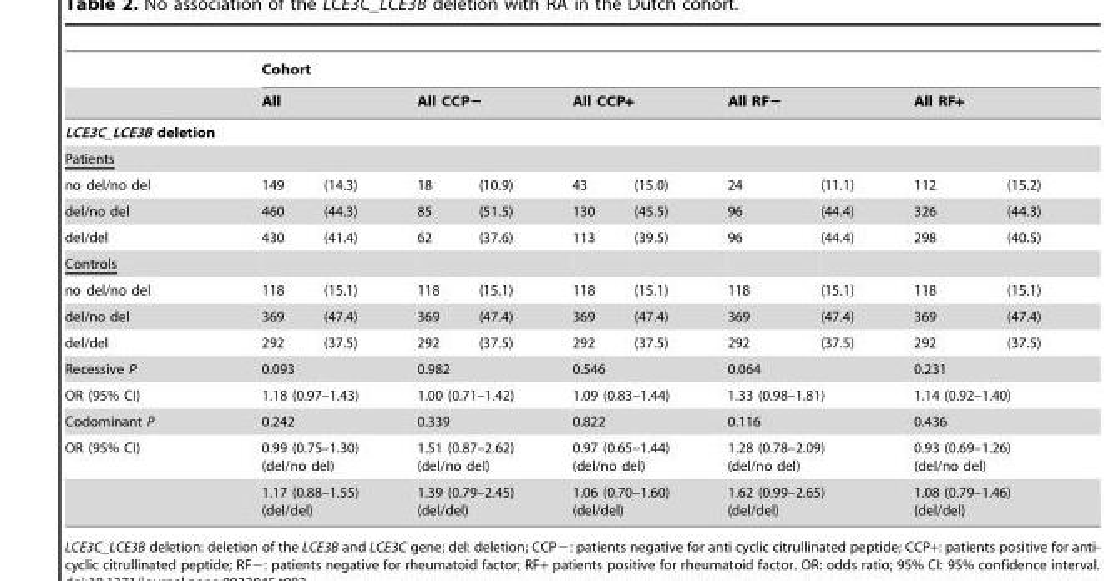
<table><thead><tr><td rowspan="2"></td><td colspan="10">Cohort</td></tr><tr><td colspan="2">All</td><td colspan="2">All CCP−</td><td colspan="2">All CCP+</td><td colspan="2">All RF−</td><td colspan="2">All RF+</td></tr><tr><td rowspan="2" colspan="11">LCE3C_LCE3B deletion Patients</td></tr><tr></tr><tr><td>no del/no del</td><td>149</td><td>(14.3)</td><td>18</td><td>(10.9)</td><td>43</td><td>(15.0)</td><td>24</td><td>(11.1)</td><td>112</td><td>(15.2)</td></tr></thead><tbody><tr><td>del/no del</td><td>460</td><td>(44.3)</td><td>85</td><td>(51.5)</td><td>130</td><td>(45.5)</td><td>96</td><td>(44.4)</td><td>326</td><td>(44.3)</td></tr><tr><td>del/del</td><td>430</td><td>(41.4)</td><td>62</td><td>(37.6)</td><td>113</td><td>(39.5)</td><td>96</td><td>(44.4)</td><td>298</td><td>(40.5)</td></tr><tr><td colspan="11">Controls</td></tr><tr><td>no del/no del</td><td>118</td><td>(15.1)</td><td>118</td><td>(15.1)</td><td>118</td><td>(15.1)</td><td>118</td><td>(15.1)</td><td>118</td><td>(15.1)</td></tr><tr><td>del/no del</td><td>369</td><td>(47.4)</td><td>369</td><td>(47.4)</td><td>369</td><td>(47.4)</td><td>369</td><td>(47.4)</td><td>369</td><td>(47.4)</td></tr><tr><td>del/del</td><td>292</td><td>(37.5)</td><td>292</td><td>(37.5)</td><td>292</td><td>(37.5)</td><td>292</td><td>(37.5)</td><td>292</td><td>(37.5)</td></tr><tr><td>Recessive P</td><td colspan="2">0.093</td><td colspan="2">0.982</td><td colspan="2">0.546</td><td colspan="2">0.064</td><td colspan="2">0.231</td></tr><tr><td>OR (95% CI)</td><td colspan="2">1.18 (0.97–1.43)</td><td colspan="2">1.00 (0.71–1.42)</td><td colspan="2">1.09 (0.83–1.44)</td><td colspan="2">1.33 (0.98–1.81)</td><td colspan="2">1.14 (0.92–1.40)</td></tr><tr><td>Codominant P</td><td colspan="2">0.242</td><td colspan="2">0.339</td><td colspan="2">0.822</td><td colspan="2">0.116</td><td colspan="2">0.436</td></tr><tr><td rowspan="2">OR (95% CI)</td><td colspan="2">0.99 (0.75–1.30) (del/no del)</td><td colspan="2">1.51 (0.87–2.62) (del/no del)</td><td colspan="2">0.97 (0.65–1.44) (del/no del)</td><td colspan="2">1.28 (0.78–2.09) (del/no del)</td><td colspan="2">0.93 (0.69–1.26) (del/no del)</td></tr><tr><td colspan="2">1.17 (0.88–1.55) (del/del)</td><td colspan="2">1.39 (0.79–2.45) (del/del)</td><td colspan="2">1.06 (0.70–1.60) (del/del)</td><td colspan="2">1.62 (0.99–2.65) (del/del)</td><td colspan="2">1.08 (0.79–1.46) (del/del)</td></tr></tbody></table>